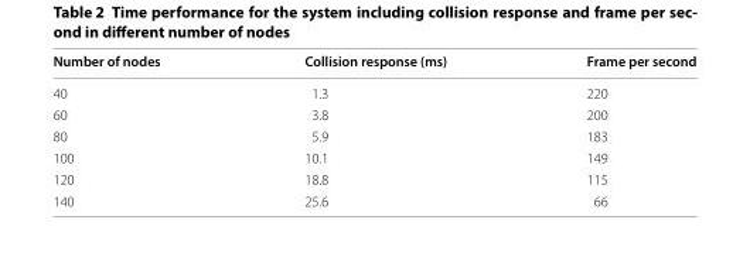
<table><thead><tr><td>Number of nodes</td><td>Collision response (ms)</td><td>Frame per second</td></tr></thead><tbody><tr><td>40</td><td>1.3</td><td>220</td></tr><tr><td>60</td><td>3.8</td><td>200</td></tr><tr><td>80</td><td>5.9</td><td>183</td></tr><tr><td>100</td><td>10.1</td><td>149</td></tr><tr><td>120</td><td>18.8</td><td>115</td></tr><tr><td>140</td><td>25.6</td><td>66</td></tr></tbody></table>